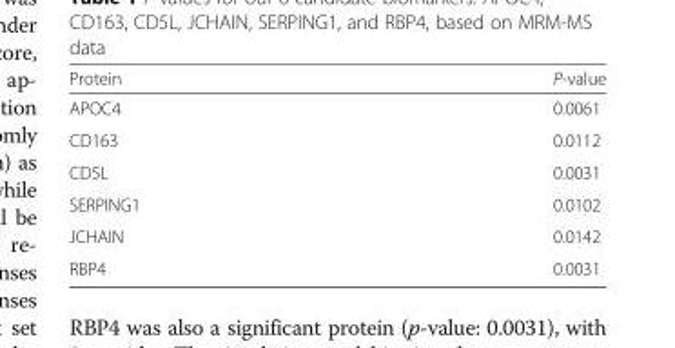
<table><thead><tr><td>Protein</td><td>P-value</td></tr></thead><tbody><tr><td>APOC4</td><td>0.0061</td></tr><tr><td>CD163</td><td>0.0112</td></tr><tr><td>CD5L</td><td>0.0031</td></tr><tr><td>SERPING1</td><td>0.0102</td></tr><tr><td>JCHAIN</td><td>0.0142</td></tr><tr><td>RBP4</td><td>0.0031</td></tr></tbody></table>